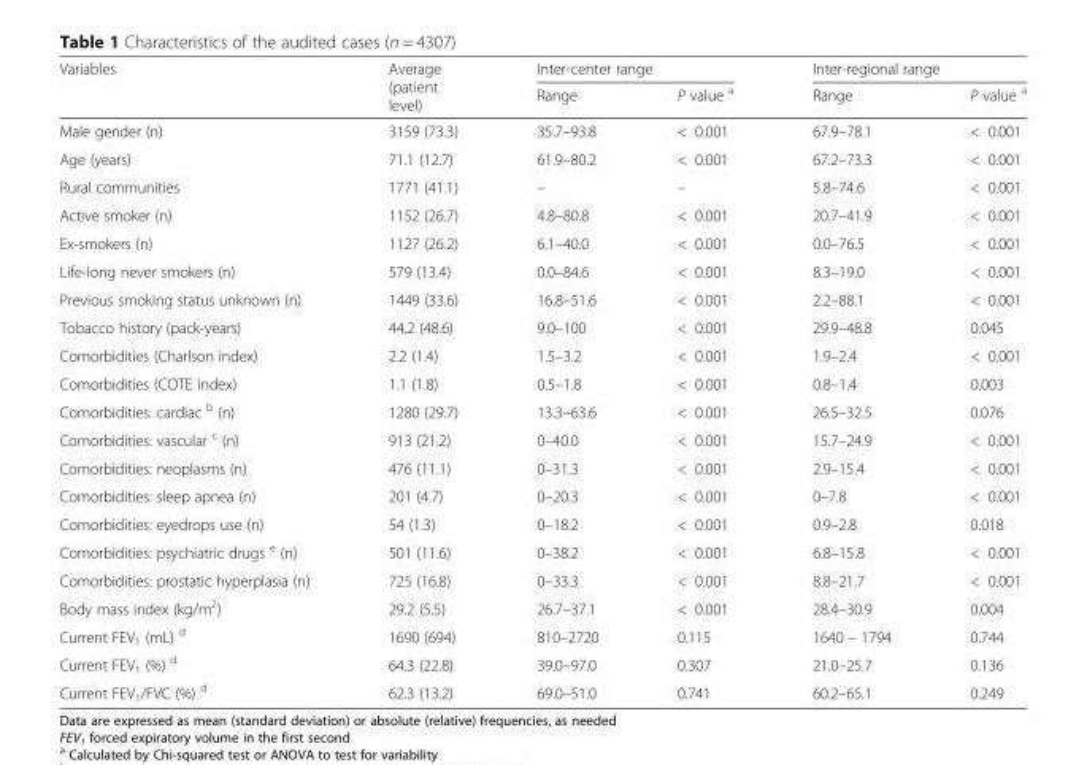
<table><thead><tr><td rowspan="2">Variables</td><td rowspan="2">Average (patient level)</td><td colspan="2">Inter-center range</td><td colspan="2">Inter-regional range</td></tr><tr><td>Range</td><td>P value <sup>a</sup></td><td>Range</td><td>P value <sup>a</sup></td></tr></thead><tbody><tr><td>Male gender (n)</td><td>3159 (73.3)</td><td>35.7–93.8</td><td>&lt; 0.001</td><td>67.9–78.1</td><td>&lt; 0.001</td></tr><tr><td>Age (years)</td><td>71.1 (12.7)</td><td>61.9–80.2</td><td>&lt; 0.001</td><td>67.2–73.3</td><td>&lt; 0.001</td></tr><tr><td>Rural communities</td><td>1771 (41.1)</td><td>–</td><td>–</td><td>5.8–74.6</td><td>&lt; 0.001</td></tr><tr><td>Active smoker (n)</td><td>1152 (26.7)</td><td>4.8–80.8</td><td>&lt; 0.001</td><td>20.7–41.9</td><td>&lt; 0.001</td></tr><tr><td>Ex-smokers (n)</td><td>1127 (26.2)</td><td>6.1–40.0</td><td>&lt; 0.001</td><td>0.0–76.5</td><td>&lt; 0.001</td></tr><tr><td>Life-long never smokers (n)</td><td>579 (13.4)</td><td>0.0–84.6</td><td>&lt; 0.001</td><td>8.3–19.0</td><td>&lt; 0.001</td></tr><tr><td>Previous smoking status unknown (n)</td><td>1449 (33.6)</td><td>16.8–51.6</td><td>&lt; 0.001</td><td>2.2–88.1</td><td>&lt; 0.001</td></tr><tr><td>Tobacco history (pack-years)</td><td>44.2 (48.6)</td><td>9.0–100</td><td>&lt; 0.001</td><td>29.9–48.8</td><td>0.045</td></tr><tr><td>Comorbidities (Charlson index)</td><td>2.2 (1.4)</td><td>1.5–3.2</td><td>&lt; 0.001</td><td>1.9–2.4</td><td>&lt; 0.001</td></tr><tr><td>Comorbidities (COTE index)</td><td>1.1 (1.8)</td><td>0.5–1.8</td><td>&lt; 0.001</td><td>0.8–1.4</td><td>0.003</td></tr><tr><td>Comorbidities: cardiac <sup>b</sup> (n)</td><td>1280 (29.7)</td><td>13.3–63.6</td><td>&lt; 0.001</td><td>26.5–32.5</td><td>0.076</td></tr><tr><td>Comorbidities: vascular <sup>c</sup> (n)</td><td>913 (21.2)</td><td>0–40.0</td><td>&lt; 0.001</td><td>15.7–24.9</td><td>&lt; 0.001</td></tr><tr><td>Comorbidities: neoplasms (n)</td><td>476 (11.1)</td><td>0–31.3</td><td>&lt; 0.001</td><td>2.9–15.4</td><td>&lt; 0.001</td></tr><tr><td>Comorbidities: sleep apnea (n)</td><td>201 (4.7)</td><td>0–20.3</td><td>&lt; 0.001</td><td>0–7.8</td><td>&lt; 0.001</td></tr><tr><td>Comorbidities: eyedrops use (n)</td><td>54 (1.3)</td><td>0–18.2</td><td>&lt; 0.001</td><td>0.9–2.8</td><td>0.018</td></tr><tr><td>Comorbidities: psychiatric drugs <sup>e</sup> (n)</td><td>501 (11.6)</td><td>0–38.2</td><td>&lt; 0.001</td><td>6.8–15.8</td><td>&lt; 0.001</td></tr><tr><td>Comorbidities: prostatic hyperplasia (n)</td><td>725 (16.8)</td><td>0–33.3</td><td>&lt; 0.001</td><td>8.8–21.7</td><td>&lt; 0.001</td></tr><tr><td>Body mass index (kg/m<sup>2</sup>)</td><td>29.2 (5.5)</td><td>26.7–37.1</td><td>&lt; 0.001</td><td>28.4–30.9</td><td>0.004</td></tr><tr><td>Current FEV<sub>1</sub> (mL) <sup>d</sup></td><td>1690 (694)</td><td>810–2720</td><td>0.115</td><td>1640 – 1794</td><td>0.744</td></tr><tr><td>Current FEV<sub>1</sub> (%) <sup>d</sup></td><td>64.3 (22.8)</td><td>39.0–97.0</td><td>0.307</td><td>21.0–25.7</td><td>0.136</td></tr><tr><td>Current FEV<sub>1</sub>/FVC (%) <sup>d</sup></td><td>62.3 (13.2)</td><td>69.0–51.0</td><td>0.741</td><td>60.2–65.1</td><td>0.249</td></tr></tbody></table>